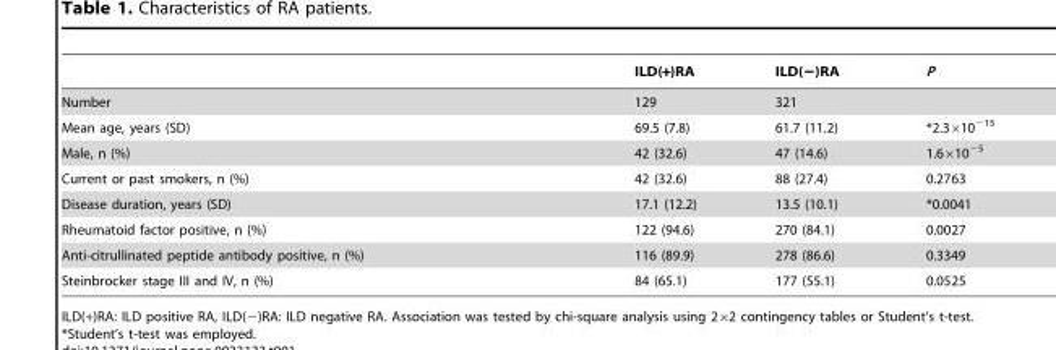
<table><thead><tr><td></td><td>ILD(+)RA</td><td>ILD(−)RA</td><td>P</td></tr></thead><tbody><tr><td>Number</td><td>129</td><td>321</td><td></td></tr><tr><td>Mean age, years (SD)</td><td>69.5 (7.8)</td><td>61.7 (11.2)</td><td>*2.3×10<sup>−15</sup></td></tr><tr><td>Male, n (%)</td><td>42 (32.6)</td><td>47 (14.6)</td><td>1.6×10<sup>−5</sup></td></tr><tr><td>Current or past smokers, n (%)</td><td>42 (32.6)</td><td>88 (27.4)</td><td>0.2763</td></tr><tr><td>Disease duration, years (SD)</td><td>17.1 (12.2)</td><td>13.5 (10.1)</td><td>*0.0041</td></tr><tr><td>Rheumatoid factor positive, n (%)</td><td>122 (94.6)</td><td>270 (84.1)</td><td>0.0027</td></tr><tr><td>Anti-citrullinated peptide antibody positive, n (%)</td><td>116 (89.9)</td><td>278 (86.6)</td><td>0.3349</td></tr><tr><td>Steinbrocker stage III and IV, n (%)</td><td>84 (65.1)</td><td>177 (55.1)</td><td>0.0525</td></tr></tbody></table>